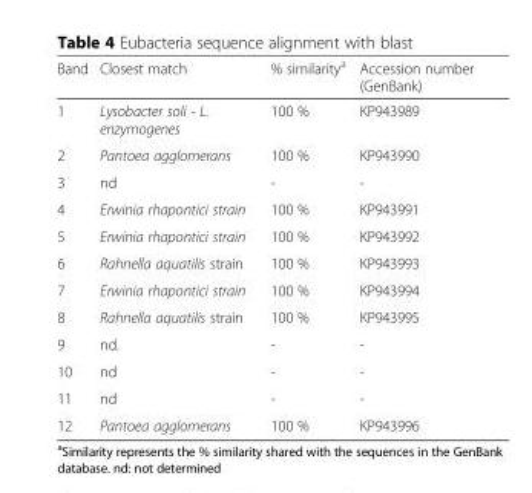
<table><thead><tr><td>Band</td><td>Closest match</td><td>% similarity<sup>a</sup></td><td>Accession number (GenBank)</td></tr></thead><tbody><tr><td>1</td><td>Lysobacter soli - L. enzymogenes</td><td>100 %</td><td>KP943989</td></tr><tr><td>2</td><td>Pantoea agglomerans</td><td>100 %</td><td>KP943990</td></tr><tr><td>3</td><td>nd</td><td>-</td><td>-</td></tr><tr><td>4</td><td>Erwinia rhapontici strain</td><td>100 %</td><td>KP943991</td></tr><tr><td>5</td><td>Erwinia rhapontici strain</td><td>100 %</td><td>KP943992</td></tr><tr><td>6</td><td>Rahnella aquatilis strain</td><td>100 %</td><td>KP943993</td></tr><tr><td>7</td><td>Erwinia rhapontici strain</td><td>100 %</td><td>KP943994</td></tr><tr><td>8</td><td>Rahnella aquatilis strain</td><td>100 %</td><td>KP943995</td></tr><tr><td>9</td><td>nd.</td><td>-</td><td>-</td></tr><tr><td>10</td><td>nd</td><td>-</td><td>-</td></tr><tr><td>11</td><td>nd</td><td>-</td><td>-</td></tr><tr><td>12</td><td>Pantoea agglomerans</td><td>100 %</td><td>KP943996</td></tr></tbody></table>